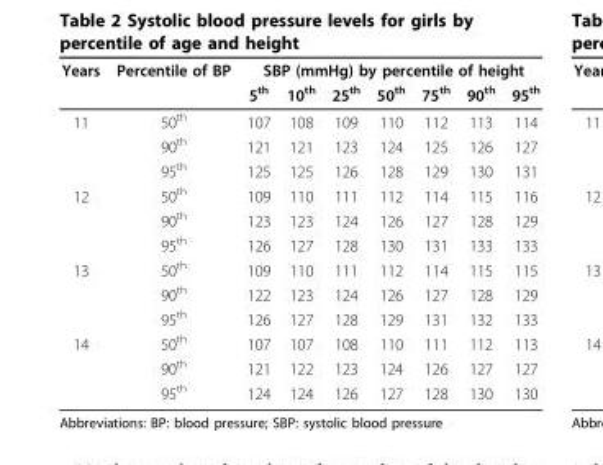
<table><thead><tr><td rowspan="2">Years</td><td rowspan="2">Percentile of BP</td><td colspan="7">SBP (mmHg) by percentile of height</td></tr><tr><td>5<sup>th</sup></td><td>10<sup>th</sup></td><td>25<sup>th</sup></td><td>50<sup>th</sup></td><td>75<sup>th</sup></td><td>90<sup>th</sup></td><td>95<sup>th</sup></td></tr></thead><tbody><tr><td rowspan="3">11</td><td>50<sup>th</sup></td><td>107</td><td>108</td><td>109</td><td>110</td><td>112</td><td>113</td><td>114</td></tr><tr><td>90<sup>th</sup></td><td>121</td><td>121</td><td>123</td><td>124</td><td>125</td><td>126</td><td>127</td></tr><tr><td>95<sup>th</sup></td><td>125</td><td>125</td><td>126</td><td>128</td><td>129</td><td>130</td><td>131</td></tr><tr><td rowspan="3">12</td><td>50<sup>th</sup></td><td>109</td><td>110</td><td>111</td><td>112</td><td>114</td><td>115</td><td>116</td></tr><tr><td>90<sup>th</sup></td><td>123</td><td>123</td><td>124</td><td>126</td><td>127</td><td>128</td><td>129</td></tr><tr><td>95<sup>th</sup></td><td>126</td><td>127</td><td>128</td><td>130</td><td>131</td><td>133</td><td>133</td></tr><tr><td rowspan="3">13</td><td>50<sup>th</sup></td><td>109</td><td>110</td><td>111</td><td>112</td><td>114</td><td>115</td><td>115</td></tr><tr><td>90<sup>th</sup></td><td>122</td><td>123</td><td>124</td><td>126</td><td>127</td><td>128</td><td>129</td></tr><tr><td>95<sup>th</sup></td><td>126</td><td>127</td><td>128</td><td>129</td><td>131</td><td>132</td><td>133</td></tr><tr><td rowspan="3">14</td><td>50<sup>th</sup></td><td>107</td><td>107</td><td>108</td><td>110</td><td>111</td><td>112</td><td>113</td></tr><tr><td>90<sup>th</sup></td><td>121</td><td>122</td><td>123</td><td>124</td><td>126</td><td>127</td><td>127</td></tr><tr><td>95<sup>th</sup></td><td>124</td><td>124</td><td>126</td><td>127</td><td>128</td><td>130</td><td>130</td></tr></tbody></table>